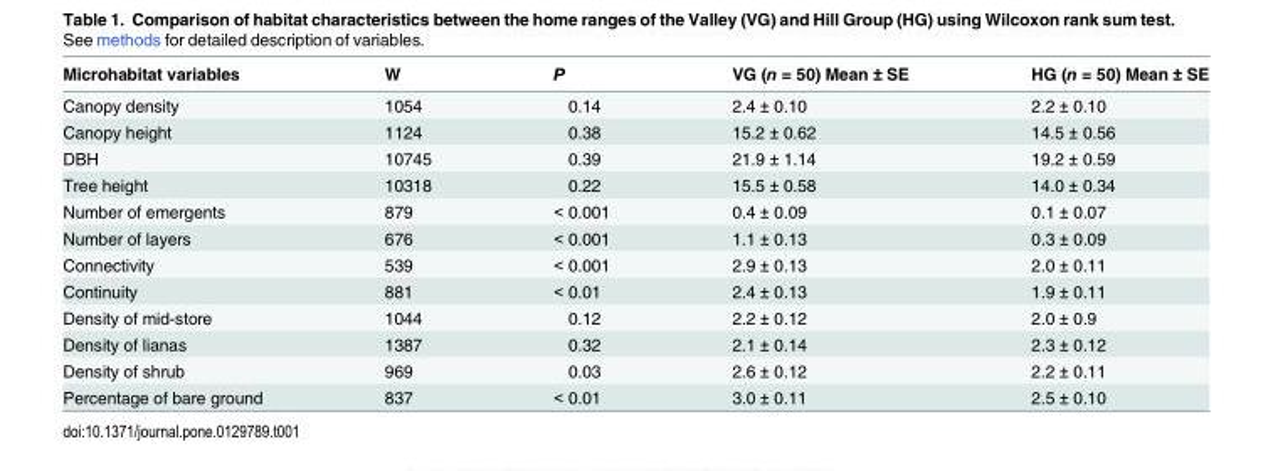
<table><thead><tr><td>Microhabitat variables</td><td>W</td><td>P</td><td>VG (n = 50) Mean ± SE</td><td>HG (n = 50) Mean ± SE</td></tr></thead><tbody><tr><td>Canopy density</td><td>1054</td><td>0.14</td><td>2.4 ± 0.10</td><td>2.2 ± 0.10</td></tr><tr><td>Canopy height</td><td>1124</td><td>0.38</td><td>15.2 ± 0.62</td><td>14.5 ± 0.56</td></tr><tr><td>DBH</td><td>10745</td><td>0.39</td><td>21.9 ± 1.14</td><td>19.2 ± 0.59</td></tr><tr><td>Tree height</td><td>10318</td><td>0.22</td><td>15.5 ± 0.58</td><td>14.0 ± 0.34</td></tr><tr><td>Number of emergents</td><td>879</td><td>&lt; 0.001</td><td>0.4 ± 0.09</td><td>0.1 ± 0.07</td></tr><tr><td>Number of layers</td><td>676</td><td>&lt; 0.001</td><td>1.1 ± 0.13</td><td>0.3 ± 0.09</td></tr><tr><td>Connectivity</td><td>539</td><td>&lt; 0.001</td><td>2.9 ± 0.13</td><td>2.0 ± 0.11</td></tr><tr><td>Continuity</td><td>881</td><td>&lt; 0.01</td><td>2.4 ± 0.13</td><td>1.9 ± 0.11</td></tr><tr><td>Density of mid-store</td><td>1044</td><td>0.12</td><td>2.2 ± 0.12</td><td>2.0 ± 0.9</td></tr><tr><td>Density of lianas</td><td>1387</td><td>0.32</td><td>2.1 ± 0.14</td><td>2.3 ± 0.12</td></tr><tr><td>Density of shrub</td><td>969</td><td>0.03</td><td>2.6 ± 0.12</td><td>2.2 ± 0.11</td></tr><tr><td>Percentage of bare ground</td><td>837</td><td>&lt; 0.01</td><td>3.0 ± 0.11</td><td>2.5 ± 0.10</td></tr></tbody></table>